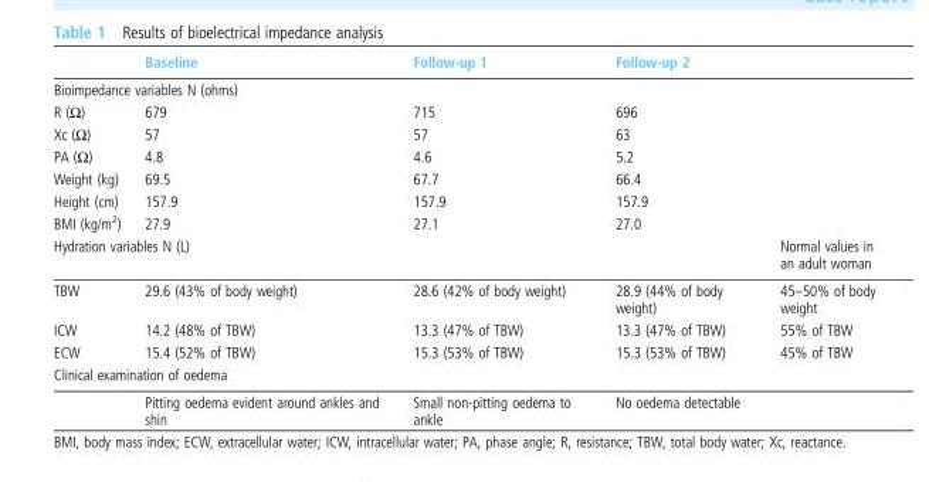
<table><thead><tr><td></td><td>Baseline</td><td>Follow-up 1</td><td>Follow-up 2</td><td></td></tr></thead><tbody><tr><td colspan="5">Bioimpedance variables N (ohms)</td></tr><tr><td>R (Ω)</td><td>679</td><td>715</td><td>696</td><td></td></tr><tr><td>Xc (Ω)</td><td>57</td><td>57</td><td>63</td><td></td></tr><tr><td>PA (Ω)</td><td>4.8</td><td>4.6</td><td>5.2</td><td></td></tr><tr><td>Weight (kg)</td><td>69.5</td><td>67.7</td><td>66.4</td><td></td></tr><tr><td>Height (cm)</td><td>157.9</td><td>157.9</td><td>157.9</td><td></td></tr><tr><td>BMI (kg/m<sup>2</sup>)</td><td>27.9</td><td>27.1</td><td>27.0</td><td></td></tr><tr><td colspan="4">Hydration variables N (L)</td><td>Normal values in an adult woman</td></tr><tr><td>TBW</td><td>29.6 (43% of body weight)</td><td>28.6 (42% of body weight)</td><td>28.9 (44% of body weight)</td><td>45–50% of body weight</td></tr><tr><td>ICW</td><td>14.2 (48% of TBW)</td><td>13.3 (47% of TBW)</td><td>13.3 (47% of TBW)</td><td>55% of TBW</td></tr><tr><td>ECW</td><td>15.4 (52% of TBW)</td><td>15.3 (53% of TBW)</td><td>15.3 (53% of TBW)</td><td>45% of TBW</td></tr><tr><td colspan="5">Clinical examination of oedema</td></tr><tr><td></td><td>Pitting oedema evident around ankles and shin</td><td>Small non-pitting oedema to ankle</td><td>No oedema detectable</td><td></td></tr></tbody></table>